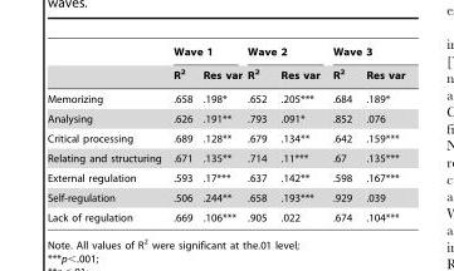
<table><thead><tr><td rowspan="2"></td><td colspan="2">Wave 1</td><td colspan="2">Wave 2</td><td colspan="2">Wave 3</td></tr><tr><td>R<sup>2</sup></td><td>Res var</td><td>R<sup>2</sup></td><td>Res var</td><td>R<sup>2</sup></td><td>Res var</td></tr></thead><tbody><tr><td>Memorizing</td><td>.658</td><td>.198*</td><td>.652</td><td>.205***</td><td>.684</td><td>.189*</td></tr><tr><td>Analysing</td><td>.626</td><td>.191**</td><td>.793</td><td>.091*</td><td>.852</td><td>.076</td></tr><tr><td>Critical processing</td><td>.689</td><td>.128**</td><td>.679</td><td>.134**</td><td>.642</td><td>.159***</td></tr><tr><td>Relating and structuring</td><td>.671</td><td>.135**</td><td>.714</td><td>.11***</td><td>.67</td><td>.135***</td></tr><tr><td>External regulation</td><td>.593</td><td>.17***</td><td>.637</td><td>.142**</td><td>.598</td><td>.167***</td></tr><tr><td>Self-regulation</td><td>.506</td><td>.244**</td><td>.658</td><td>.193***</td><td>.929</td><td>.039</td></tr><tr><td>Lack of regulation</td><td>.669</td><td>.106***</td><td>.905</td><td>.022</td><td>.674</td><td>.104***</td></tr></tbody></table>